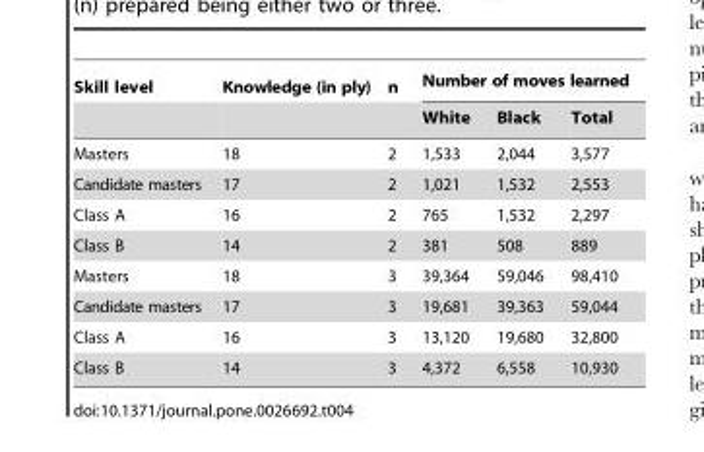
<table><thead><tr><td rowspan="2">Skill level</td><td rowspan="2">Knowledge (in ply)</td><td rowspan="2">n</td><td colspan="3">Number of moves learned</td></tr><tr><td>White</td><td>Black</td><td>Total</td></tr></thead><tbody><tr><td>Masters</td><td>18</td><td>2</td><td>1,533</td><td>2,044</td><td>3,577</td></tr><tr><td>Candidate masters</td><td>17</td><td>2</td><td>1,021</td><td>1,532</td><td>2,553</td></tr><tr><td>Class A</td><td>16</td><td>2</td><td>765</td><td>1,532</td><td>2,297</td></tr><tr><td>Class B</td><td>14</td><td>2</td><td>381</td><td>508</td><td>889</td></tr><tr><td>Masters</td><td>18</td><td>3</td><td>39,364</td><td>59,046</td><td>98,410</td></tr><tr><td>Candidate masters</td><td>17</td><td>3</td><td>19,681</td><td>39,363</td><td>59,044</td></tr><tr><td>Class A</td><td>16</td><td>3</td><td>13,120</td><td>19,680</td><td>32,800</td></tr><tr><td>Class B</td><td>14</td><td>3</td><td>4,372</td><td>6,558</td><td>10,930</td></tr></tbody></table>